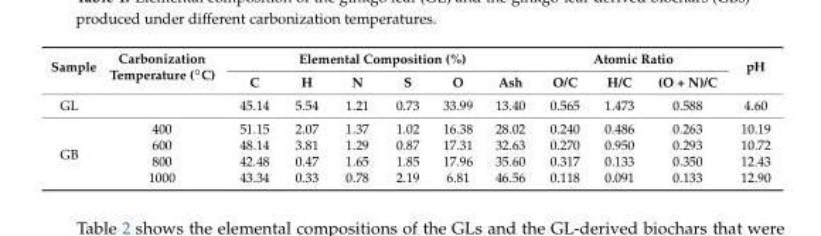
<table><thead><tr><td rowspan="2">Sample</td><td rowspan="2">Carbonization Temperature (◦C)</td><td colspan="6">Elemental Composition (%)</td><td colspan="3">Atomic Ratio</td><td rowspan="2">pH</td></tr><tr><td>C</td><td>H</td><td>N</td><td>S</td><td>O</td><td>Ash</td><td>O/C</td><td>H/C</td><td>(O + N)/C</td></tr></thead><tbody><tr><td>GL</td><td></td><td>45.14</td><td>5.54</td><td>1.21</td><td>0.73</td><td>33.99</td><td>13.40</td><td>0.565</td><td>1.473</td><td>0.588</td><td>4.60</td></tr><tr><td rowspan="4">GB</td><td>400</td><td>51.15</td><td>2.07</td><td>1.37</td><td>1.02</td><td>16.38</td><td>28.02</td><td>0.240</td><td>0.486</td><td>0.263</td><td>10.19</td></tr><tr><td>600</td><td>48.14</td><td>3.81</td><td>1.29</td><td>0.87</td><td>17.31</td><td>32.63</td><td>0.270</td><td>0.950</td><td>0.293</td><td>10.72</td></tr><tr><td>800</td><td>42.48</td><td>0.47</td><td>1.65</td><td>1.85</td><td>17.96</td><td>35.60</td><td>0.317</td><td>0.133</td><td>0.350</td><td>12.43</td></tr><tr><td>1000</td><td>43.34</td><td>0.33</td><td>0.78</td><td>2.19</td><td>6.81</td><td>46.56</td><td>0.118</td><td>0.091</td><td>0.133</td><td>12.90</td></tr></tbody></table>